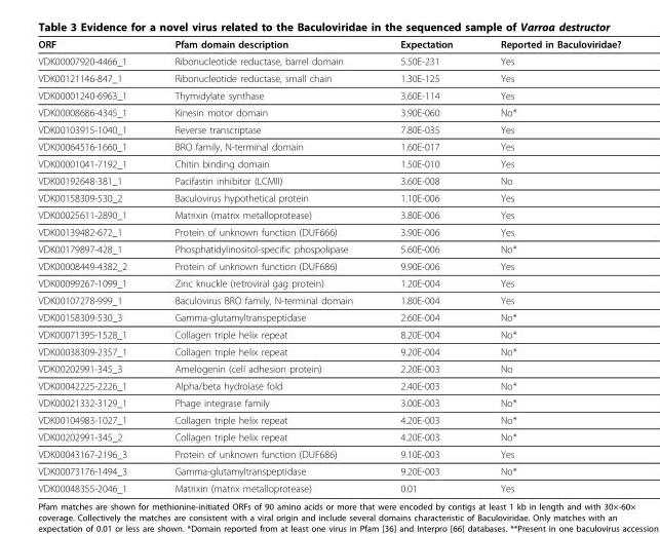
<table><thead><tr><td>ORF</td><td>Pfam domain description</td><td>Expectation</td><td>Reported in Baculoviridae?</td></tr></thead><tbody><tr><td>VDK00007920-4466_1</td><td>Ribonucleotide reductase, barrel domain</td><td>5.50E-231</td><td>Yes</td></tr><tr><td>VDK00121146-847_1</td><td>Ribonucleotide reductase, small chain</td><td>1.30E-125</td><td>Yes</td></tr><tr><td>VDK00001240-6963_1</td><td>Thymidylate synthase</td><td>3.60E-114</td><td>Yes</td></tr><tr><td>VDK00008686-4345_1</td><td>Kinesin motor domain</td><td>3.90E-060</td><td>No*</td></tr><tr><td>VDK00103915-1040_1</td><td>Reverse transcriptase</td><td>7.80E-035</td><td>Yes</td></tr><tr><td>VDK00064516-1660_1</td><td>BRO family, N-terminal domain</td><td>1.60E-017</td><td>Yes</td></tr><tr><td>VDK00001041-7192_1</td><td>Chitin binding domain</td><td>1.50E-010</td><td>Yes</td></tr><tr><td>VDK00192648-381_1</td><td>Pacifastin inhibitor (LCMII)</td><td>3.60E-008</td><td>No</td></tr><tr><td>VDK00158309-530_2</td><td>Baculovirus hypothetical protein</td><td>1.10E-006</td><td>Yes</td></tr><tr><td>VDK00025611-2890_1</td><td>Matrixin (matrix metalloprotease)</td><td>3.80E-006</td><td>Yes</td></tr><tr><td>VDK00139482-672_1</td><td>Protein of unknown function (DUF666)</td><td>3.90E-006</td><td>Yes</td></tr><tr><td>VDK00179897-428_1</td><td>Phosphatidylinositol-specific phospolipase</td><td>5.60E-006</td><td>No*</td></tr><tr><td>VDK00008449-4382_2</td><td>Protein of unknown function (DUF686)</td><td>9.90E-006</td><td>Yes</td></tr><tr><td>VDK00099267-1099_1</td><td>Zinc knuckle (retroviral gag protein)</td><td>1.20E-004</td><td>Yes</td></tr><tr><td>VDK00107278-999_1</td><td>Baculovirus BRO family, N-terminal domain</td><td>1.80E-004</td><td>Yes</td></tr><tr><td>VDK00158309-530_3</td><td>Gamma-glutamyltranspeptidase</td><td>2.60E-004</td><td>No*</td></tr><tr><td>VDK00071395-1528_1</td><td>Collagen triple helix repeat</td><td>8.20E-004</td><td>No*</td></tr><tr><td>VDK00038309-2357_1</td><td>Collagen triple helix repeat</td><td>9.20E-004</td><td>No*</td></tr><tr><td>VDK00202991-345_3</td><td>Amelogenin (cell adhesion protein)</td><td>2.20E-003</td><td>No</td></tr><tr><td>VDK00042225-2226_1</td><td>Alpha/beta hydrolase fold</td><td>2.40E-003</td><td>No*</td></tr><tr><td>VDK00021332-3129_1</td><td>Phage integrase family</td><td>3.00E-003</td><td>No*</td></tr><tr><td>VDK00104983-1027_1</td><td>Collagen triple helix repeat</td><td>4.20E-003</td><td>No*</td></tr><tr><td>VDK00202991-345_2</td><td>Collagen triple helix repeat</td><td>4.20E-003</td><td>No*</td></tr><tr><td>VDK00043167-2196_3</td><td>Protein of unknown function (DUF686)</td><td>9.10E-003</td><td>Yes</td></tr><tr><td>VDK00073176-1494_3</td><td>Gamma-glutamyltranspeptidase</td><td>9.20E-003</td><td>No*</td></tr><tr><td>VDK00048355-2046_1</td><td>Matrixin (matrix metalloprotease)</td><td>0.01</td><td>Yes</td></tr></tbody></table>